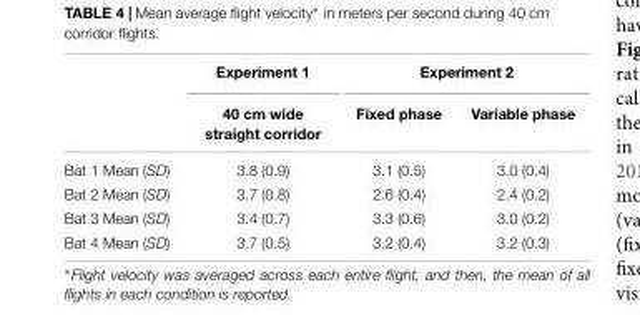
<table><thead><tr><td rowspan="2"></td><td rowspan="2">Experiment 1 40 cm wide straight corridor</td><td colspan="2">Experiment 2</td></tr><tr><td>Fixed phase</td><td>Variable phase</td></tr></thead><tbody><tr><td>Bat 1 Mean (SD)</td><td>3.8 (0.9)</td><td>3.1 (0.5)</td><td>3.0 (0.4)</td></tr><tr><td>Bat 2 Mean (SD)</td><td>3.7 (0.8)</td><td>2.6 (0.4)</td><td>2.4 (0.2)</td></tr><tr><td>Bat 3 Mean (SD)</td><td>3.4 (0.7)</td><td>3.3 (0.6)</td><td>3.0 (0.2)</td></tr><tr><td>Bat 4 Mean (SD)</td><td>3.7 (0.5)</td><td>3.2 (0.4)</td><td>3.2 (0.3)</td></tr></tbody></table>